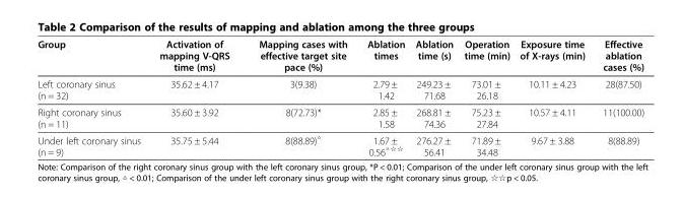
<table><thead><tr><td>Group</td><td>Activation of mapping V-QRS time (ms)</td><td>Mapping cases with effective target site pace (%)</td><td>Ablation times</td><td>Ablation time (s)</td><td>Operation time (min)</td><td>Exposure time of X-rays (min)</td><td>Effective ablation cases (%)</td></tr></thead><tbody><tr><td>Left coronary sinus (n = 32)</td><td>35.62 ± 4.17</td><td>3(9.38)</td><td>2.79 ± 1.42</td><td>249.23 ± 71.68</td><td>73.01 ± 26.18</td><td>10.11 ± 4.23</td><td>28(87.50)</td></tr><tr><td>Right coronary sinus (n = 11)</td><td>35.60 ± 3.92</td><td>8(72.73)*</td><td>2.85 ± 1.58</td><td>268.81 ± 74.36</td><td>75.23 ± 27.84</td><td>10.57 ± 4.11</td><td>11(100.00)</td></tr><tr><td>Under left coronary sinus (n = 9)</td><td>35.75 ± 5.44</td><td>8(88.89)<sup>△</sup></td><td>1.67 ± 0.56<sup>△☆☆</sup></td><td>276.27 ± 56.41</td><td>71.89 ± 34.48</td><td>9.67 ± 3.88</td><td>8(88.89)</td></tr></tbody></table>